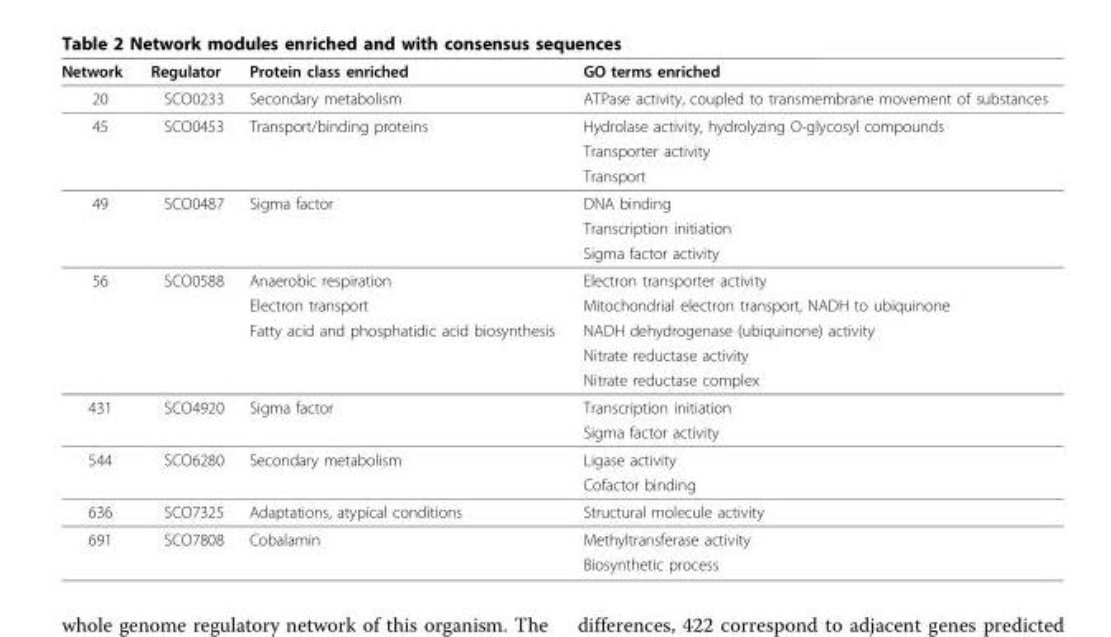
<table><thead><tr><td>Network</td><td>Regulator</td><td>Protein class enriched</td><td>GO terms enriched</td></tr></thead><tbody><tr><td>20</td><td>SCO0233</td><td>Secondary metabolism</td><td>ATPase activity, coupled to transmembrane movement of substances</td></tr><tr><td rowspan="3">45</td><td>SCO0453</td><td>Transport/binding proteins</td><td>Hydrolase activity, hydrolyzing O-glycosyl compounds</td></tr><tr><td></td><td></td><td>Transporter activity</td></tr><tr><td></td><td></td><td>Transport</td></tr><tr><td rowspan="3">49</td><td>SCO0487</td><td>Sigma factor</td><td>DNA binding</td></tr><tr><td></td><td></td><td>Transcription initiation</td></tr><tr><td></td><td></td><td>Sigma factor activity</td></tr><tr><td rowspan="5">56</td><td>SCO0588</td><td>Anaerobic respiration</td><td>Electron transporter activity</td></tr><tr><td></td><td>Electron transport</td><td>Mitochondrial electron transport, NADH to ubiquinone</td></tr><tr><td></td><td>Fatty acid and phosphatidic acid biosynthesis</td><td>NADH dehydrogenase (ubiquinone) activity</td></tr><tr><td></td><td></td><td>Nitrate reductase activity</td></tr><tr><td></td><td></td><td>Nitrate reductase complex</td></tr><tr><td rowspan="2">431</td><td>SCO4920</td><td>Sigma factor</td><td>Transcription initiation</td></tr><tr><td></td><td></td><td>Sigma factor activity</td></tr><tr><td rowspan="2">544</td><td>SCO6280</td><td>Secondary metabolism</td><td>Ligase activity</td></tr><tr><td></td><td></td><td>Cofactor binding</td></tr><tr><td>636</td><td>SCO7325</td><td>Adaptations, atypical conditions</td><td>Structural molecule activity</td></tr><tr><td rowspan="2">691</td><td>SCO7808</td><td>Cobalamin</td><td>Methyltransferase activity</td></tr><tr><td></td><td></td><td>Biosynthetic process</td></tr></tbody></table>